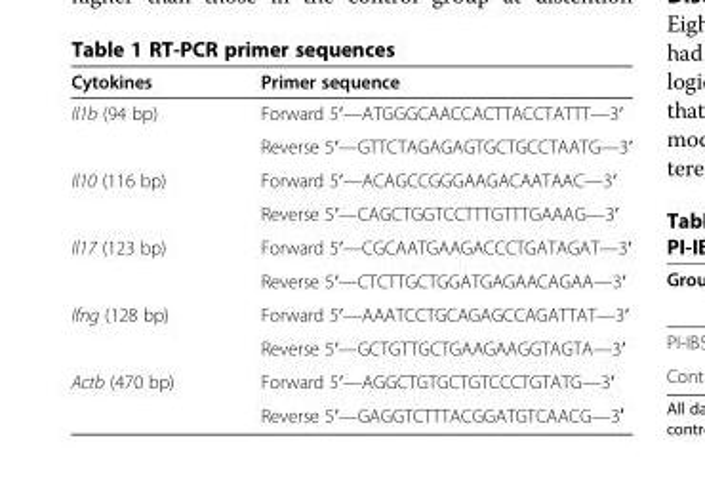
<table><thead><tr><td>Cytokines</td><td>Primer sequence</td></tr></thead><tbody><tr><td rowspan="2">Il1b (94 bp)</td><td>Forward 5′—ATGGGCAACCACTTACCTATTT—3′</td></tr><tr><td>Reverse 5′—GTTCTAGAGAGTGCTGCCTAATG—3′</td></tr><tr><td rowspan="2">Il10 (116 bp)</td><td>Forward 5′—ACAGCCGGGAAGACAATAAC—3′</td></tr><tr><td>Reverse 5′—CAGCTGGTCCTTTGTTTGAAAG—3′</td></tr><tr><td rowspan="2">Il17 (123 bp)</td><td>Forward 5′—CGCAATGAAGACCCTGATAGAT—3′</td></tr><tr><td>Reverse 5′—CTCTTGCTGGATGAGAACAGAA—3′</td></tr><tr><td rowspan="2">Ifng (128 bp)</td><td>Forward 5′—AAATCCTGCAGAGCCAGATTAT—3′</td></tr><tr><td>Reverse 5′—GCTGTTGCTGAAGAAGGTAGTA—3′</td></tr><tr><td rowspan="2">Actb (470 bp)</td><td>Forward 5′—AGGCTGTGCTGTCCCTGTATG—3′</td></tr><tr><td>Reverse 5′—GAGGTCTTTACGGATGTCAACG—3′</td></tr></tbody></table>